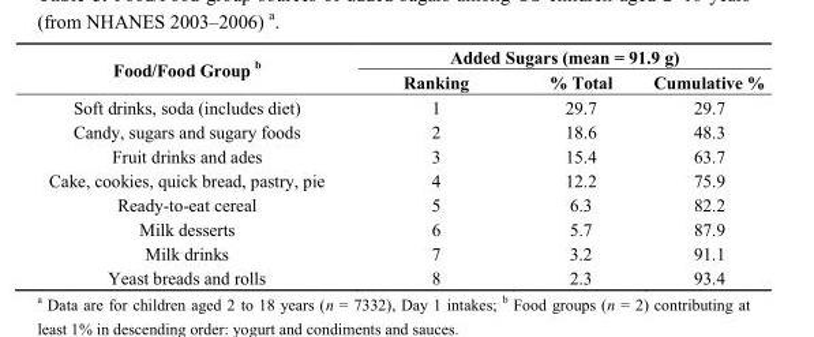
<table><thead><tr><td rowspan="2">Food/Food Group <sup>b</sup></td><td colspan="3">Added Sugars (mean = 91.9 g)</td></tr><tr><td>Ranking</td><td>% Total</td><td>Cumulative %</td></tr></thead><tbody><tr><td>Soft drinks, soda (includes diet)</td><td>1</td><td>29.7</td><td>29.7</td></tr><tr><td>Candy, sugars and sugary foods</td><td>2</td><td>18.6</td><td>48.3</td></tr><tr><td>Fruit drinks and ades</td><td>3</td><td>15.4</td><td>63.7</td></tr><tr><td>Cake, cookies, quick bread, pastry, pie</td><td>4</td><td>12.2</td><td>75.9</td></tr><tr><td>Ready-to-eat cereal</td><td>5</td><td>6.3</td><td>82.2</td></tr><tr><td>Milk desserts</td><td>6</td><td>5.7</td><td>87.9</td></tr><tr><td>Milk drinks</td><td>7</td><td>3.2</td><td>91.1</td></tr><tr><td>Yeast breads and rolls</td><td>8</td><td>2.3</td><td>93.4</td></tr></tbody></table>